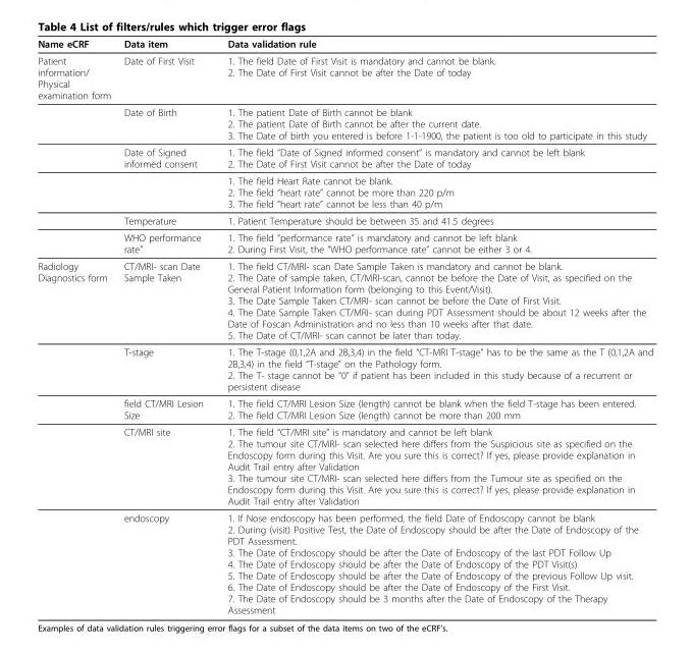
<table><thead><tr><td>Name eCRF</td><td>Data item</td><td>Data validation rule</td></tr></thead><tbody><tr><td rowspan="6">Patient information/ Physical examination form</td><td>Date of First Visit</td><td>1. The field Date of First Visit is mandatory and cannot be blank. 2. The Date of First Visit cannot be after the Date of today</td></tr><tr><td>Date of Birth</td><td>1. The patient Date of Birth cannot be blank 2. The patient Date of Birth cannot be after the current date. 3. The Date of birth you entered is before 1-1-1900, the patient is too old to participate in this study</td></tr><tr><td>Date of Signed informed consent</td><td>1. The field “Date of Signed informed consent” is mandatory and cannot be left blank 2. The Date of First Visit cannot be after the Date of today</td></tr><tr><td></td><td>1. The field Heart Rate cannot be blank. 2. The field “heart rate” cannot be more than 220 p/m 3. The field “heart rate” cannot be less than 40 p/m</td></tr><tr><td>Temperature</td><td>1. Patient Temperature should be between 35 and 41.5 degrees</td></tr><tr><td>WHO performance rate”</td><td>1. The field “performance rate” is mandatory and cannot be left blank 2. During First Visit, the “WHO performance rate” cannot be either 3 or 4.</td></tr><tr><td rowspan="5">Radiology Diagnostics form</td><td>CT/MRI- scan Date Sample Taken</td><td>1. The field CT/MRI- scan Date Sample Taken is mandatory and cannot be blank. 2. The Date of sample taken, CT/MRI-scan, cannot be before the Date of Visit, as specified on the General Patient Information form (belonging to this Event/Visit). 3. The Date Sample Taken CT/MRI- scan cannot be before the Date of First Visit. 4. The Date Sample Taken CT/MRI- scan during PDT Assessment should be about 12 weeks after the Date of Foscan Administration and no less than 10 weeks after that date. 5. The Date of CT/MRI- scan cannot be later than today.</td></tr><tr><td>T-stage</td><td>1. The T-stage (0,1,2A and 2B,3,4) in the field “CT-MRI T-stage” has to be the same as the T (0,1,2A and 2B,3,4) in the field “T-stage” on the Pathology form. 2. The T- stage cannot be “0” if patient has been included in this study because of a recurrent or persistent disease</td></tr><tr><td>field CT/MRI Lesion Size</td><td>1. The field CT/MRI Lesion Size (length) cannot be blank when the field T-stage has been entered. 2. The field CT/MRI Lesion Size (length) cannot be more than 200 mm</td></tr><tr><td>CT/MRI site</td><td>1. The field “CT/MRI site” is mandatory and cannot be left blank 2. The tumour site CT/MRI- scan selected here differs from the Suspicious site as specified on the Endoscopy form during this Visit. Are you sure this is correct? If yes, please provide explanation in Audit Trail entry after Validation 3. The tumour site CT/MRI- scan selected here differs from the Tumour site as specified on the Endoscopy form during this Visit. Are you sure this is correct? If yes, please provide explanation in Audit Trail entry after Validation</td></tr><tr><td>endoscopy</td><td>1. If Nose endoscopy has been performed, the field Date of Endoscopy cannot be blank 2. During (visit) Positive Test, the Date of Endoscopy should be after the Date of Endoscopy of the PDT Assessment. 3. The Date of Endoscopy should be after the Date of Endoscopy of the last PDT Follow Up 4. The Date of Endoscopy should be after the Date of Endoscopy of the PDT Visit(s) 5. The Date of Endoscopy should be after the Date of Endoscopy of the previous Follow Up visit. 6. The Date of Endoscopy should be after the Date of Endoscopy of the First Visit. 7. The Date of Endoscopy should be 3 months after the Date of Endoscopy of the Therapy Assessment</td></tr></tbody></table>